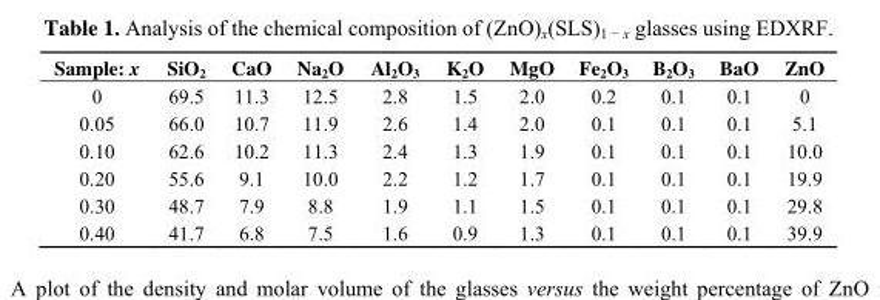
<table><thead><tr><td>Sample: x</td><td>SiO<sub>2</sub></td><td>CaO</td><td>Na<sub>2</sub>O</td><td>Al<sub>2</sub>O<sub>3</sub></td><td>K<sub>2</sub>O</td><td>MgO</td><td>Fe<sub>2</sub>O<sub>3</sub></td><td>B<sub>2</sub>O<sub>3</sub></td><td>BaO</td><td>ZnO</td></tr></thead><tbody><tr><td>0</td><td>69.5</td><td>11.3</td><td>12.5</td><td>2.8</td><td>1.5</td><td>2.0</td><td>0.2</td><td>0.1</td><td>0.1</td><td>0</td></tr><tr><td>0.05</td><td>66.0</td><td>10.7</td><td>11.9</td><td>2.6</td><td>1.4</td><td>2.0</td><td>0.1</td><td>0.1</td><td>0.1</td><td>5.1</td></tr><tr><td>0.10</td><td>62.6</td><td>10.2</td><td>11.3</td><td>2.4</td><td>1.3</td><td>1.9</td><td>0.1</td><td>0.1</td><td>0.1</td><td>10.0</td></tr><tr><td>0.20</td><td>55.6</td><td>9.1</td><td>10.0</td><td>2.2</td><td>1.2</td><td>1.7</td><td>0.1</td><td>0.1</td><td>0.1</td><td>19.9</td></tr><tr><td>0.30</td><td>48.7</td><td>7.9</td><td>8.8</td><td>1.9</td><td>1.1</td><td>1.5</td><td>0.1</td><td>0.1</td><td>0.1</td><td>29.8</td></tr><tr><td>0.40</td><td>41.7</td><td>6.8</td><td>7.5</td><td>1.6</td><td>0.9</td><td>1.3</td><td>0.1</td><td>0.1</td><td>0.1</td><td>39.9</td></tr></tbody></table>